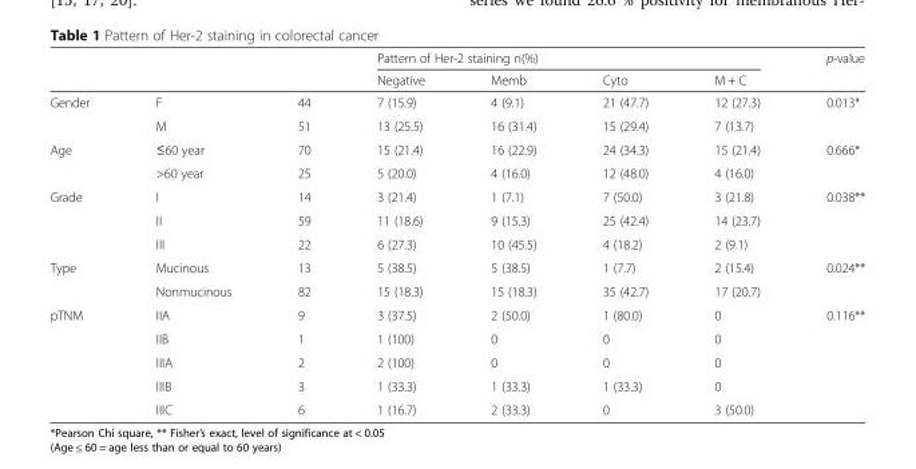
<table><thead><tr><td rowspan="2"></td><td rowspan="2"></td><td rowspan="2"></td><td colspan="4">Pattern of Her-2 staining n(%)</td><td rowspan="2">p-value</td></tr><tr><td>Negative</td><td>Memb</td><td>Cyto</td><td>M + C</td></tr></thead><tbody><tr><td rowspan="2">Gender</td><td>F</td><td>44</td><td>7 (15.9)</td><td>4 (9.1)</td><td>21 (47.7)</td><td>12 (27.3)</td><td>0.013*</td></tr><tr><td>M</td><td>51</td><td>13 (25.5)</td><td>16 (31.4)</td><td>15 (29.4)</td><td>7 (13.7)</td><td></td></tr><tr><td rowspan="2">Age</td><td>≤60 year</td><td>70</td><td>15 (21.4)</td><td>16 (22.9)</td><td>24 (34.3)</td><td>15 (21.4)</td><td>0.666*</td></tr><tr><td>&gt;60 year</td><td>25</td><td>5 (20.0)</td><td>4 (16.0)</td><td>12 (48.0)</td><td>4 (16.0)</td><td></td></tr><tr><td rowspan="3">Grade</td><td>I</td><td>14</td><td>3 (21.4)</td><td>1 (7.1)</td><td>7 (50.0)</td><td>3 (21.8)</td><td>0.038**</td></tr><tr><td>II</td><td>59</td><td>11 (18.6)</td><td>9 (15.3)</td><td>25 (42.4)</td><td>14 (23.7)</td><td></td></tr><tr><td>III</td><td>22</td><td>6 (27.3)</td><td>10 (45.5)</td><td>4 (18.2)</td><td>2 (9.1)</td><td></td></tr><tr><td rowspan="2">Type</td><td>Mucinous</td><td>13</td><td>5 (38.5)</td><td>5 (38.5)</td><td>1 (7.7)</td><td>2 (15.4)</td><td>0.024**</td></tr><tr><td>Nonmucinous</td><td>82</td><td>15 (18.3)</td><td>15 (18.3)</td><td>35 (42.7)</td><td>17 (20.7)</td><td></td></tr><tr><td rowspan="5">pTNM</td><td>IIA</td><td>9</td><td>3 (37.5)</td><td>2 (50.0)</td><td>1 (80.0)</td><td>0</td><td>0.116**</td></tr><tr><td>IIB</td><td>1</td><td>1 (100)</td><td>0</td><td>0</td><td>0</td><td></td></tr><tr><td>IIIA</td><td>2</td><td>2 (100)</td><td>0</td><td>0</td><td>0</td><td></td></tr><tr><td>IIIB</td><td>3</td><td>1 (33.3)</td><td>1 (33.3)</td><td>1 (33.3)</td><td>0</td><td></td></tr><tr><td>IIIC</td><td>6</td><td>1 (16.7)</td><td>2 (33.3)</td><td>0</td><td>3 (50.0)</td><td></td></tr></tbody></table>